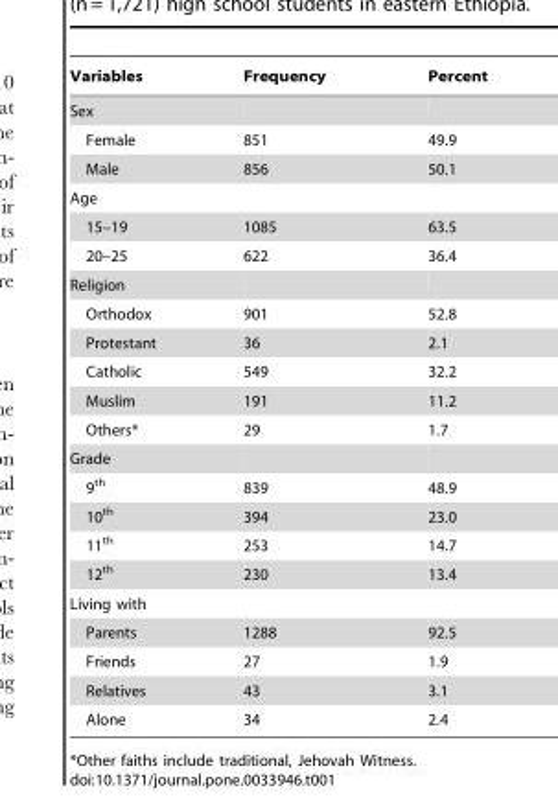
<table><thead><tr><td>Variables</td><td>Frequency</td><td>Percent</td></tr></thead><tbody><tr><td colspan="3">Sex</td></tr><tr><td>Female</td><td>851</td><td>49.9</td></tr><tr><td>Male</td><td>856</td><td>50.1</td></tr><tr><td colspan="3">Age</td></tr><tr><td>15–19</td><td>1085</td><td>63.5</td></tr><tr><td>20–25</td><td>622</td><td>36.4</td></tr><tr><td colspan="3">Religion</td></tr><tr><td>Orthodox</td><td>901</td><td>52.8</td></tr><tr><td>Protestant</td><td>36</td><td>2.1</td></tr><tr><td>Catholic</td><td>549</td><td>32.2</td></tr><tr><td>Muslim</td><td>191</td><td>11.2</td></tr><tr><td>Others*</td><td>29</td><td>1.7</td></tr><tr><td colspan="3">Grade</td></tr><tr><td>9<sup>th</sup></td><td>839</td><td>48.9</td></tr><tr><td>10<sup>th</sup></td><td>394</td><td>23.0</td></tr><tr><td>11<sup>th</sup></td><td>253</td><td>14.7</td></tr><tr><td>12<sup>th</sup></td><td>230</td><td>13.4</td></tr><tr><td colspan="3">Living with</td></tr><tr><td>Parents</td><td>1288</td><td>92.5</td></tr><tr><td>Friends</td><td>27</td><td>1.9</td></tr><tr><td>Relatives</td><td>43</td><td>3.1</td></tr><tr><td>Alone</td><td>34</td><td>2.4</td></tr></tbody></table>